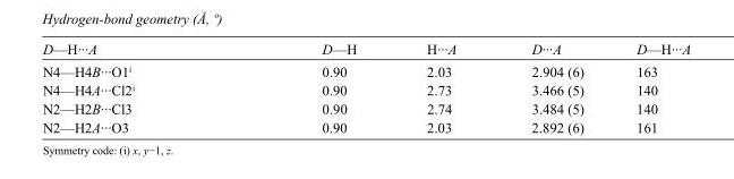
<table><tbody><tr><td>D—H···A</td><td>D—H</td><td>H···A</td><td>D···A</td><td>D—H···A</td></tr><tr><td>N4—H4B···O1<sup>i</sup></td><td>0.90</td><td>2.03</td><td>2.904 (6)</td><td>163</td></tr><tr><td>N4—H4A···Cl2<sup>i</sup></td><td>0.90</td><td>2.73</td><td>3.466 (5)</td><td>140</td></tr><tr><td>N2—H2B···Cl3</td><td>0.90</td><td>2.74</td><td>3.484 (5)</td><td>140</td></tr><tr><td>N2—H2A···O3</td><td>0.90</td><td>2.03</td><td>2.892 (6)</td><td>161</td></tr></tbody></table>